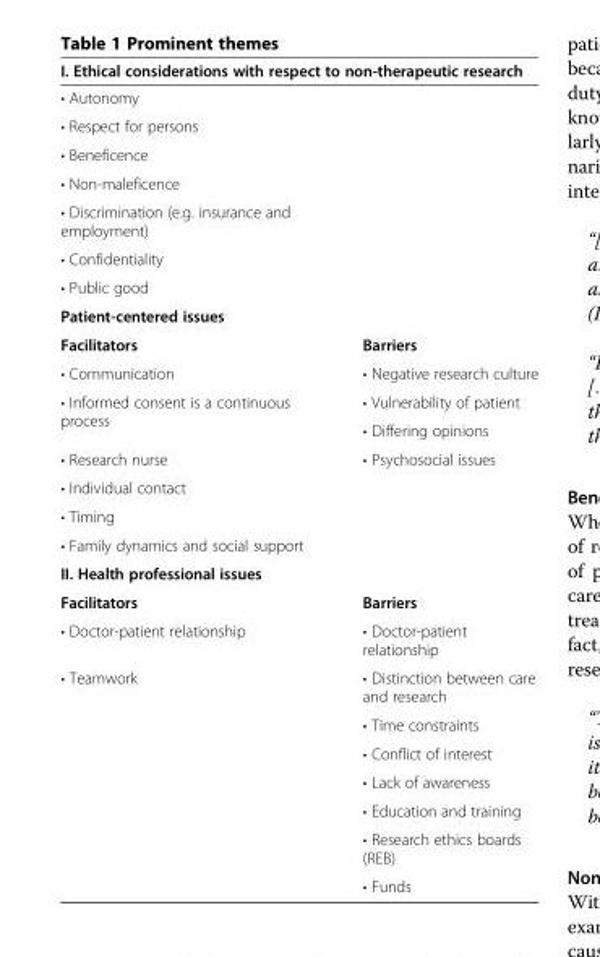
<table><thead><tr><td colspan="2">I. Ethical considerations with respect to non-therapeutic research</td></tr><tr><td>• Autonomy</td><td></td></tr></thead><tbody><tr><td colspan="2">• Respect for persons</td></tr><tr><td colspan="2">• Beneficence</td></tr><tr><td colspan="2">• Non-maleficence</td></tr><tr><td colspan="2">• Discrimination (e.g. insurance and employment)</td></tr><tr><td colspan="2">• Confidentiality</td></tr><tr><td colspan="2">• Public good</td></tr><tr><td colspan="2">Patient-centered issues</td></tr><tr><td>Facilitators</td><td>Barriers</td></tr><tr><td>• Communication</td><td>• Negative research culture</td></tr><tr><td rowspan="2">• Informed consent is a continuous process</td><td>• Vulnerability of patient</td></tr><tr><td>• Differing opinions</td></tr><tr><td>• Research nurse</td><td>• Psychosocial issues</td></tr><tr><td colspan="2">• Individual contact</td></tr><tr><td colspan="2">• Timing</td></tr><tr><td colspan="2">• Family dynamics and social support</td></tr><tr><td colspan="2">II. Health professional issues</td></tr><tr><td>Facilitators</td><td>Barriers</td></tr><tr><td>• Doctor-patient relationship</td><td>• Doctor-patient relationship</td></tr><tr><td rowspan="7">• Teamwork</td><td>• Distinction between care and research</td></tr><tr><td>• Time constraints</td></tr><tr><td>• Conflict of interest</td></tr><tr><td>• Lack of awareness</td></tr><tr><td>• Education and training</td></tr><tr><td>• Research ethics boards (REB)</td></tr><tr><td>• Funds</td></tr></tbody></table>